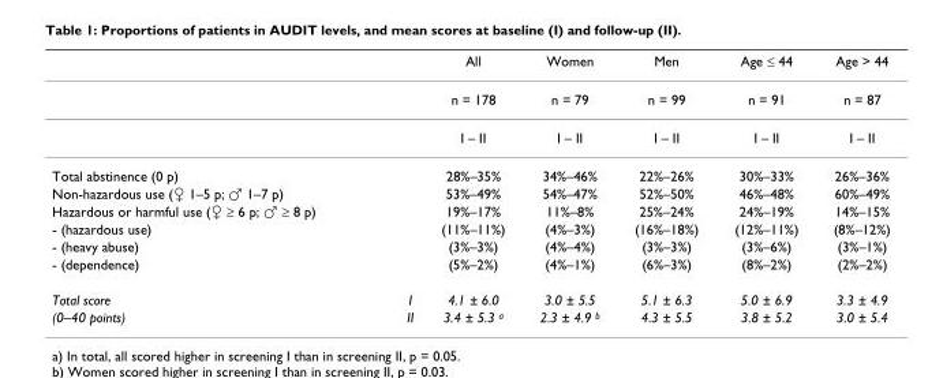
<table><thead><tr><td></td><td></td><td>All</td><td>Women</td><td>Men</td><td>Age ≤ 44</td><td>Age &gt; 44</td></tr></thead><tbody><tr><td></td><td></td><td>n = 178</td><td>n = 79</td><td>n = 99</td><td>n = 91</td><td>n = 87</td></tr><tr><td></td><td></td><td>I – II</td><td>I – II</td><td>I – II</td><td>I – II</td><td>I – II</td></tr><tr><td>Total abstinence (0 p)</td><td></td><td>28%–35%</td><td>34%–46%</td><td>22%–26%</td><td>30%–33%</td><td>26%–36%</td></tr><tr><td>Non-hazardous use (♀ 1–5 p; ♂ 1–7 p)</td><td></td><td>53%–49%</td><td>54%–47%</td><td>52%–50%</td><td>46%–48%</td><td>60%–49%</td></tr><tr><td>Hazardous or harmful use (♀ ≥ 6 p; ♂ ≥ 8 p)</td><td></td><td>19%–17%</td><td>11%–8%</td><td>25%–24%</td><td>24%–19%</td><td>14%–15%</td></tr><tr><td>- (hazardous use)</td><td></td><td>(11%–11%)</td><td>(4%–3%)</td><td>(16%–18%)</td><td>(12%–11%)</td><td>(8%–12%)</td></tr><tr><td>- (heavy abuse)</td><td></td><td>(3%–3%)</td><td>(4%–4%)</td><td>(3%–3%)</td><td>(3%–6%)</td><td>(3%–1%)</td></tr><tr><td>- (dependence)</td><td></td><td>(5%–2%)</td><td>(4%–1%)</td><td>(6%–3%)</td><td>(8%–2%)</td><td>(2%–2%)</td></tr><tr><td>Total score</td><td>I</td><td>4.1 ± 6.0</td><td>3.0 ± 5.5</td><td>5.1 ± 6.3</td><td>5.0 ± 6.9</td><td>3.3 ± 4.9</td></tr><tr><td>(0–40 points)</td><td>II</td><td>3.4 ± 5.3 <sup>a</sup></td><td>2.3 ± 4.9 <sup>b</sup></td><td>4.3 ± 5.5</td><td>3.8 ± 5.2</td><td>3.0 ± 5.4</td></tr></tbody></table>